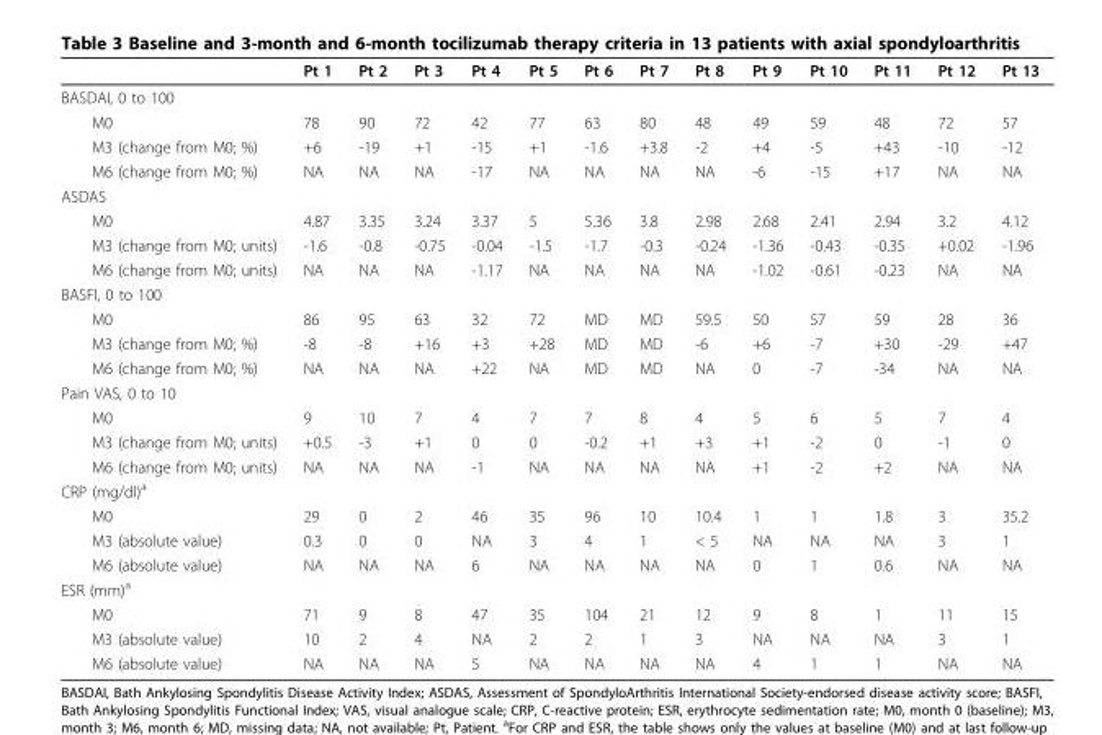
<table><thead><tr><td></td><td>Pt 1</td><td>Pt 2</td><td>Pt 3</td><td>Pt 4</td><td>Pt 5</td><td>Pt 6</td><td>Pt 7</td><td>Pt 8</td><td>Pt 9</td><td>Pt 10</td><td>Pt 11</td><td>Pt 12</td><td>Pt 13</td></tr></thead><tbody><tr><td colspan="14">BASDAI, 0 to 100</td></tr><tr><td>M0</td><td>78</td><td>90</td><td>72</td><td>42</td><td>77</td><td>63</td><td>80</td><td>48</td><td>49</td><td>59</td><td>48</td><td>72</td><td>57</td></tr><tr><td>M3 (change from M0; %)</td><td>+6</td><td>-19</td><td>+1</td><td>-15</td><td>+1</td><td>-1.6</td><td>+3.8</td><td>-2</td><td>+4</td><td>-5</td><td>+43</td><td>-10</td><td>-12</td></tr><tr><td>M6 (change from M0; %)</td><td>NA</td><td>NA</td><td>NA</td><td>-17</td><td>NA</td><td>NA</td><td>NA</td><td>NA</td><td>-6</td><td>-15</td><td>+17</td><td>NA</td><td>NA</td></tr><tr><td colspan="14">ASDAS</td></tr><tr><td>M0</td><td>4.87</td><td>3.35</td><td>3.24</td><td>3.37</td><td>5</td><td>5.36</td><td>3.8</td><td>2.98</td><td>2.68</td><td>2.41</td><td>2.94</td><td>3.2</td><td>4.12</td></tr><tr><td>M3 (change from M0; units)</td><td>-1.6</td><td>-0.8</td><td>-0.75</td><td>-0.04</td><td>-1.5</td><td>-1.7</td><td>-0.3</td><td>-0.24</td><td>-1.36</td><td>-0.43</td><td>-0.35</td><td>+0.02</td><td>-1.96</td></tr><tr><td>M6 (change from M0; units)</td><td>NA</td><td>NA</td><td>NA</td><td>-1.17</td><td>NA</td><td>NA</td><td>NA</td><td>NA</td><td>-1.02</td><td>-0.61</td><td>-0.23</td><td>NA</td><td>NA</td></tr><tr><td colspan="14">BASFI, 0 to 100</td></tr><tr><td>M0</td><td>86</td><td>95</td><td>63</td><td>32</td><td>72</td><td>MD</td><td>MD</td><td>59.5</td><td>50</td><td>57</td><td>59</td><td>28</td><td>36</td></tr><tr><td>M3 (change from M0; %)</td><td>-8</td><td>-8</td><td>+16</td><td>+3</td><td>+28</td><td>MD</td><td>MD</td><td>-6</td><td>+6</td><td>-7</td><td>+30</td><td>-29</td><td>+47</td></tr><tr><td>M6 (change from M0; %)</td><td>NA</td><td>NA</td><td>NA</td><td>+22</td><td>NA</td><td>MD</td><td>MD</td><td>NA</td><td>0</td><td>-7</td><td>-34</td><td>NA</td><td>NA</td></tr><tr><td colspan="14">Pain VAS, 0 to 10</td></tr><tr><td>M0</td><td>9</td><td>10</td><td>7</td><td>4</td><td>7</td><td>7</td><td>8</td><td>4</td><td>5</td><td>6</td><td>5</td><td>7</td><td>4</td></tr><tr><td>M3 (change from M0; units)</td><td>+0.5</td><td>-3</td><td>+1</td><td>0</td><td>0</td><td>-0.2</td><td>+1</td><td>+3</td><td>+1</td><td>-2</td><td>0</td><td>-1</td><td>0</td></tr><tr><td>M6 (change from M0; units)</td><td>NA</td><td>NA</td><td>NA</td><td>-1</td><td>NA</td><td>NA</td><td>NA</td><td>NA</td><td>+1</td><td>-2</td><td>+2</td><td>NA</td><td>NA</td></tr><tr><td colspan="14">CRP (mg/dl)<sup>a</sup></td></tr><tr><td>M0</td><td>29</td><td>0</td><td>2</td><td>46</td><td>35</td><td>96</td><td>10</td><td>10.4</td><td>1</td><td>1</td><td>1.8</td><td>3</td><td>35.2</td></tr><tr><td>M3 (absolute value)</td><td>0.3</td><td>0</td><td>0</td><td>NA</td><td>3</td><td>4</td><td>1</td><td>&lt; 5</td><td>NA</td><td>NA</td><td>NA</td><td>3</td><td>1</td></tr><tr><td>M6 (absolute value)</td><td>NA</td><td>NA</td><td>NA</td><td>6</td><td>NA</td><td>NA</td><td>NA</td><td>NA</td><td>0</td><td>1</td><td>0.6</td><td>NA</td><td>NA</td></tr><tr><td colspan="14">ESR (mm)<sup>a</sup></td></tr><tr><td>M0</td><td>71</td><td>9</td><td>8</td><td>47</td><td>35</td><td>104</td><td>21</td><td>12</td><td>9</td><td>8</td><td>1</td><td>11</td><td>15</td></tr><tr><td>M3 (absolute value)</td><td>10</td><td>2</td><td>4</td><td>NA</td><td>2</td><td>2</td><td>1</td><td>3</td><td>NA</td><td>NA</td><td>NA</td><td>3</td><td>1</td></tr><tr><td>M6 (absolute value)</td><td>NA</td><td>NA</td><td>NA</td><td>5</td><td>NA</td><td>NA</td><td>NA</td><td>NA</td><td>4</td><td>1</td><td>1</td><td>NA</td><td>NA</td></tr></tbody></table>